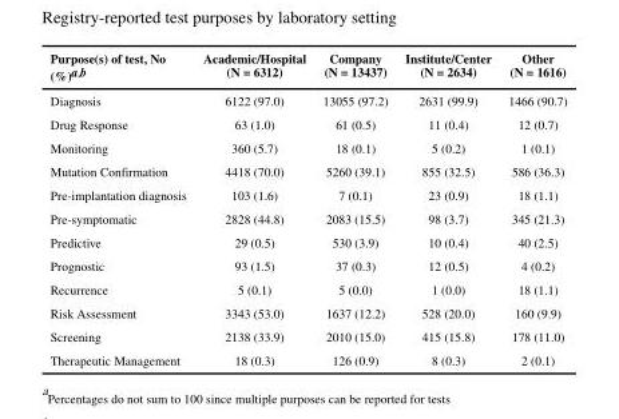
<table><thead><tr><td>Purpose(s) of test, No (%)<sup>a,b</sup></td><td>Academic/Hospital (N = 6312)</td><td>Company (N = 13437)</td><td>Institute/Center (N = 2634)</td><td>Other (N = 1616)</td></tr></thead><tbody><tr><td>Diagnosis</td><td>6122 (97.0)</td><td>13055 (97.2)</td><td>2631 (99.9)</td><td>1466 (90.7)</td></tr><tr><td>Drug Response</td><td>63 (1.0)</td><td>61 (0.5)</td><td>11 (0.4)</td><td>12 (0.7)</td></tr><tr><td>Monitoring</td><td>360 (5.7)</td><td>18 (0.1)</td><td>5 (0.2)</td><td>1 (0.1)</td></tr><tr><td>Mutation Confirmation</td><td>4418 (70.0)</td><td>5260 (39.1)</td><td>855 (32.5)</td><td>586 (36.3)</td></tr><tr><td>Pre-implantation diagnosis</td><td>103 (1.6)</td><td>7 (0.1)</td><td>23 (0.9)</td><td>18 (1.1)</td></tr><tr><td>Pre-symptomatic</td><td>2828 (44.8)</td><td>2083 (15.5)</td><td>98 (3.7)</td><td>345 (21.3)</td></tr><tr><td>Predictive</td><td>29 (0.5)</td><td>530 (3.9)</td><td>10 (0.4)</td><td>40 (2.5)</td></tr><tr><td>Prognostic</td><td>93 (1.5)</td><td>37 (0.3)</td><td>12 (0.5)</td><td>4 (0.2)</td></tr><tr><td>Recurrence</td><td>5 (0.1)</td><td>5 (0.0)</td><td>1 (0.0)</td><td>18 (1.1)</td></tr><tr><td>Risk Assessment</td><td>3343 (53.0)</td><td>1637 (12.2)</td><td>528 (20.0)</td><td>160 (9.9)</td></tr><tr><td>Screening</td><td>2138 (33.9)</td><td>2010 (15.0)</td><td>415 (15.8)</td><td>178 (11.0)</td></tr><tr><td>Therapeutic Management</td><td>18 (0.3)</td><td>126 (0.9)</td><td>8 (0.3)</td><td>2 (0.1)</td></tr></tbody></table>